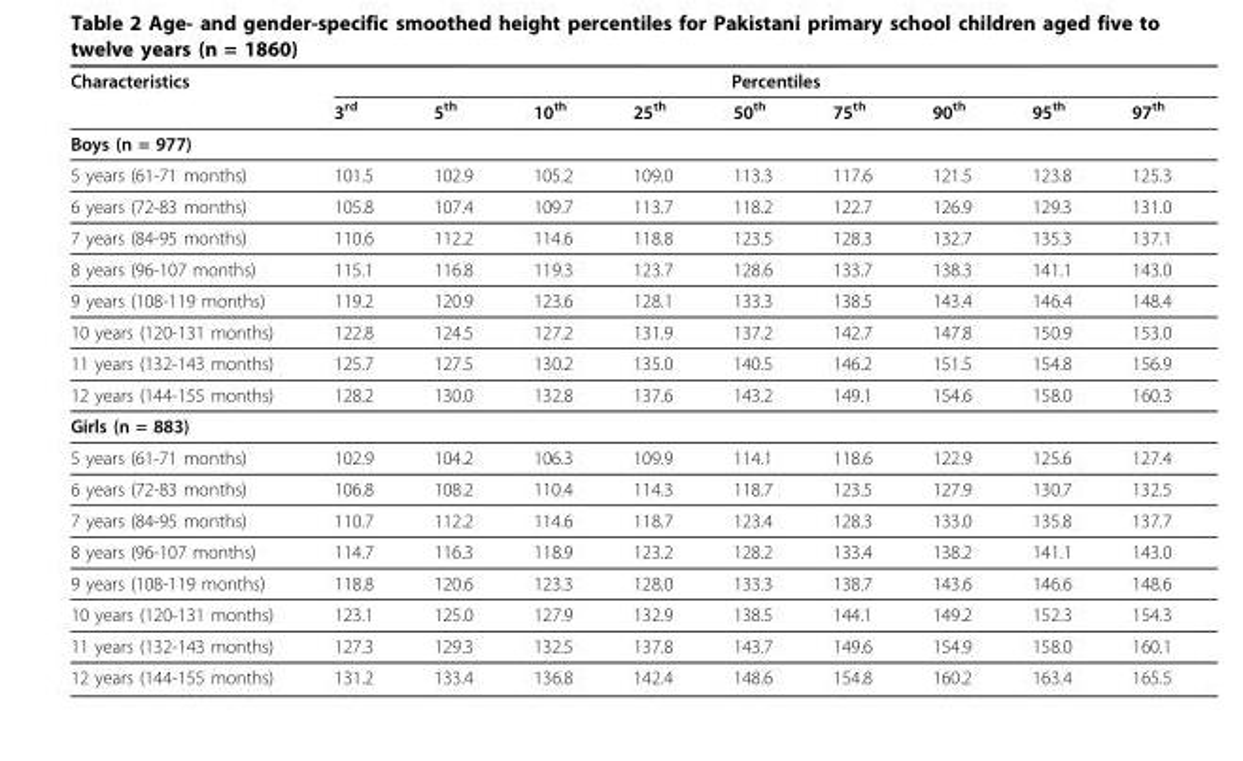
<table><thead><tr><td rowspan="2">Characteristics</td><td colspan="9">Percentiles</td></tr><tr><td>3<sup>rd</sup></td><td>5<sup>th</sup></td><td>10<sup>th</sup></td><td>25<sup>th</sup></td><td>50<sup>th</sup></td><td>75<sup>th</sup></td><td>90<sup>th</sup></td><td>95<sup>th</sup></td><td>97<sup>th</sup></td></tr></thead><tbody><tr><td colspan="10">Boys (n = 977)</td></tr><tr><td>5 years (61-71 months)</td><td>101.5</td><td>102.9</td><td>105.2</td><td>109.0</td><td>113.3</td><td>117.6</td><td>121.5</td><td>123.8</td><td>125.3</td></tr><tr><td>6 years (72-83 months)</td><td>105.8</td><td>107.4</td><td>109.7</td><td>113.7</td><td>118.2</td><td>122.7</td><td>126.9</td><td>129.3</td><td>131.0</td></tr><tr><td>7 years (84-95 months)</td><td>110.6</td><td>112.2</td><td>114.6</td><td>118.8</td><td>123.5</td><td>128.3</td><td>132.7</td><td>135.3</td><td>137.1</td></tr><tr><td>8 years (96-107 months)</td><td>115.1</td><td>116.8</td><td>119.3</td><td>123.7</td><td>128.6</td><td>133.7</td><td>138.3</td><td>141.1</td><td>143.0</td></tr><tr><td>9 years (108-119 months)</td><td>119.2</td><td>120.9</td><td>123.6</td><td>128.1</td><td>133.3</td><td>138.5</td><td>143.4</td><td>146.4</td><td>148.4</td></tr><tr><td>10 years (120-131 months)</td><td>122.8</td><td>124.5</td><td>127.2</td><td>131.9</td><td>137.2</td><td>142.7</td><td>147.8</td><td>150.9</td><td>153.0</td></tr><tr><td>11 years (132-143 months)</td><td>125.7</td><td>127.5</td><td>130.2</td><td>135.0</td><td>140.5</td><td>146.2</td><td>151.5</td><td>154.8</td><td>156.9</td></tr><tr><td>12 years (144-155 months)</td><td>128.2</td><td>130.0</td><td>132.8</td><td>137.6</td><td>143.2</td><td>149.1</td><td>154.6</td><td>158.0</td><td>160.3</td></tr><tr><td colspan="10">Girls (n = 883)</td></tr><tr><td>5 years (61-71 months)</td><td>102.9</td><td>104.2</td><td>106.3</td><td>109.9</td><td>114.1</td><td>118.6</td><td>122.9</td><td>125.6</td><td>127.4</td></tr><tr><td>6 years (72-83 months)</td><td>106.8</td><td>108.2</td><td>110.4</td><td>114.3</td><td>118.7</td><td>123.5</td><td>127.9</td><td>130.7</td><td>132.5</td></tr><tr><td>7 years (84-95 months)</td><td>110.7</td><td>112.2</td><td>114.6</td><td>118.7</td><td>123.4</td><td>128.3</td><td>133.0</td><td>135.8</td><td>137.7</td></tr><tr><td>8 years (96-107 months)</td><td>114.7</td><td>116.3</td><td>118.9</td><td>123.2</td><td>128.2</td><td>133.4</td><td>138.2</td><td>141.1</td><td>143.0</td></tr><tr><td>9 years (108-119 months)</td><td>118.8</td><td>120.6</td><td>123.3</td><td>128.0</td><td>133.3</td><td>138.7</td><td>143.6</td><td>146.6</td><td>148.6</td></tr><tr><td>10 years (120-131 months)</td><td>123.1</td><td>125.0</td><td>127.9</td><td>132.9</td><td>138.5</td><td>144.1</td><td>149.2</td><td>152.3</td><td>154.3</td></tr><tr><td>11 years (132-143 months)</td><td>127.3</td><td>129.3</td><td>132.5</td><td>137.8</td><td>143.7</td><td>149.6</td><td>154.9</td><td>158.0</td><td>160.1</td></tr><tr><td>12 years (144-155 months)</td><td>131.2</td><td>133.4</td><td>136.8</td><td>142.4</td><td>148.6</td><td>154.8</td><td>160.2</td><td>163.4</td><td>165.5</td></tr></tbody></table>